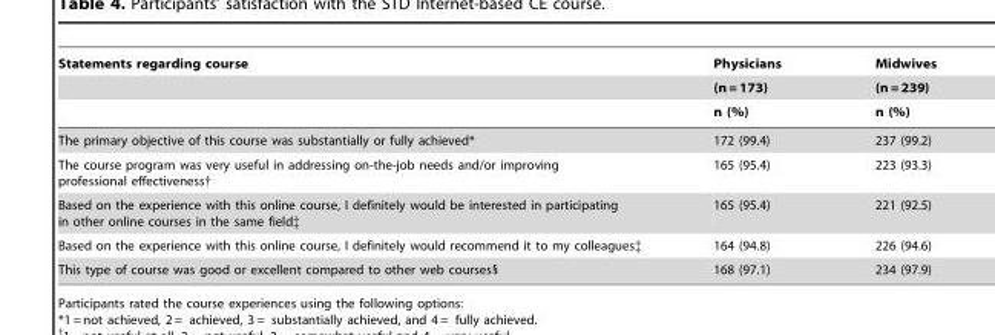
<table><thead><tr><td rowspan="3">Statements regarding course</td><td rowspan="3">Physicians (n = 173) n (%)</td><td rowspan="3">Midwives (n = 239) n (%)</td></tr><tr></tr><tr></tr></thead><tbody><tr><td>The primary objective of this course was substantially or fully achieved*</td><td>172 (99.4)</td><td>237 (99.2)</td></tr><tr><td>The course program was very useful in addressing on-the-job needs and/or improving professional effectiveness†</td><td>165 (95.4)</td><td>223 (93.3)</td></tr><tr><td>Based on the experience with this online course, I definitely would be interested in participating in other online courses in the same field‡</td><td>165 (95.4)</td><td>221 (92.5)</td></tr><tr><td>Based on the experience with this online course, I definitely would recommend it to my colleagues‡</td><td>164 (94.8)</td><td>226 (94.6)</td></tr><tr><td>This type of course was good or excellent compared to other web courses§</td><td>168 (97.1)</td><td>234 (97.9)</td></tr></tbody></table>